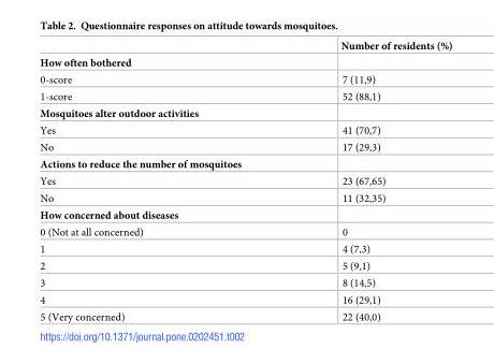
<table><thead><tr><td></td><td>Number of residents (%)</td></tr></thead><tbody><tr><td colspan="2">How often bothered</td></tr><tr><td>0-score</td><td>7 (11,9)</td></tr><tr><td>1-score</td><td>52 (88,1)</td></tr><tr><td colspan="2">Mosquitoes alter outdoor activities</td></tr><tr><td>Yes</td><td>41 (70,7)</td></tr><tr><td>No</td><td>17 (29,3)</td></tr><tr><td colspan="2">Actions to reduce the number of mosquitoes</td></tr><tr><td>Yes</td><td>23 (67,65)</td></tr><tr><td>No</td><td>11 (32,35)</td></tr><tr><td colspan="2">How concerned about diseases</td></tr><tr><td>0 (Not at all concerned)</td><td>0</td></tr><tr><td>1</td><td>4 (7,3)</td></tr><tr><td>2</td><td>5 (9,1)</td></tr><tr><td>3</td><td>8 (14,5)</td></tr><tr><td>4</td><td>16 (29,1)</td></tr><tr><td>5 (Very concerned)</td><td>22 (40,0)</td></tr></tbody></table>